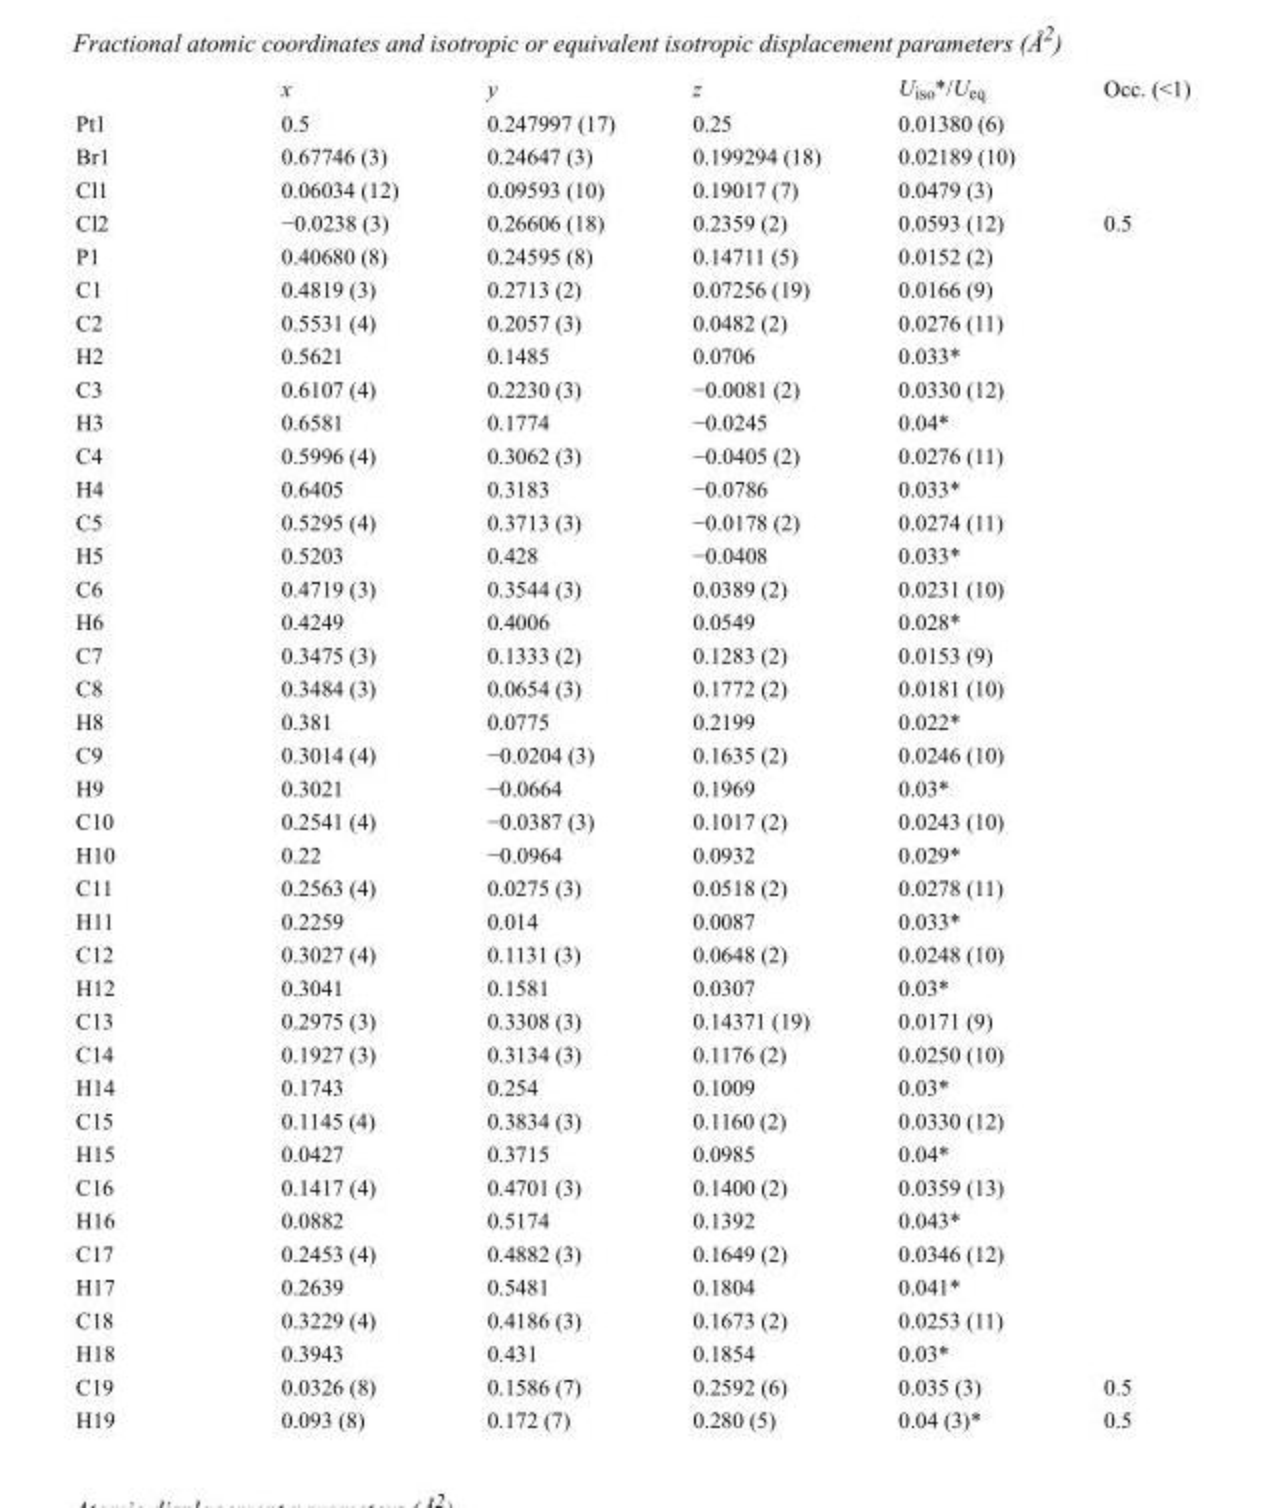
<table><thead><tr><td></td><td>x</td><td>y</td><td>z</td><td>U<sub>iso</sub>*/U<sub>eq</sub></td><td>Occ. (&lt;1)</td></tr></thead><tbody><tr><td>Pt1</td><td>0.5</td><td>0.247997 (17)</td><td>0.25</td><td>0.01380 (6)</td><td></td></tr><tr><td>Br1</td><td>0.67746 (3)</td><td>0.24647 (3)</td><td>0.199294 (18)</td><td>0.02189 (10)</td><td></td></tr><tr><td>Cl1</td><td>0.06034 (12)</td><td>0.09593 (10)</td><td>0.19017 (7)</td><td>0.0479 (3)</td><td></td></tr><tr><td>Cl2</td><td>−0.0238 (3)</td><td>0.26606 (18)</td><td>0.2359 (2)</td><td>0.0593 (12)</td><td>0.5</td></tr><tr><td>P1</td><td>0.40680 (8)</td><td>0.24595 (8)</td><td>0.14711 (5)</td><td>0.0152 (2)</td><td></td></tr><tr><td>C1</td><td>0.4819 (3)</td><td>0.2713 (2)</td><td>0.07256 (19)</td><td>0.0166 (9)</td><td></td></tr><tr><td>C2</td><td>0.5531 (4)</td><td>0.2057 (3)</td><td>0.0482 (2)</td><td>0.0276 (11)</td><td></td></tr><tr><td>H2</td><td>0.5621</td><td>0.1485</td><td>0.0706</td><td>0.033*</td><td></td></tr><tr><td>C3</td><td>0.6107 (4)</td><td>0.2230 (3)</td><td>−0.0081 (2)</td><td>0.0330 (12)</td><td></td></tr><tr><td>H3</td><td>0.6581</td><td>0.1774</td><td>−0.0245</td><td>0.04*</td><td></td></tr><tr><td>C4</td><td>0.5996 (4)</td><td>0.3062 (3)</td><td>−0.0405 (2)</td><td>0.0276 (11)</td><td></td></tr><tr><td>H4</td><td>0.6405</td><td>0.3183</td><td>−0.0786</td><td>0.033*</td><td></td></tr><tr><td>C5</td><td>0.5295 (4)</td><td>0.3713 (3)</td><td>−0.0178 (2)</td><td>0.0274 (11)</td><td></td></tr><tr><td>H5</td><td>0.5203</td><td>0.428</td><td>−0.0408</td><td>0.033*</td><td></td></tr><tr><td>C6</td><td>0.4719 (3)</td><td>0.3544 (3)</td><td>0.0389 (2)</td><td>0.0231 (10)</td><td></td></tr><tr><td>H6</td><td>0.4249</td><td>0.4006</td><td>0.0549</td><td>0.028*</td><td></td></tr><tr><td>C7</td><td>0.3475 (3)</td><td>0.1333 (2)</td><td>0.1283 (2)</td><td>0.0153 (9)</td><td></td></tr><tr><td>C8</td><td>0.3484 (3)</td><td>0.0654 (3)</td><td>0.1772 (2)</td><td>0.0181 (10)</td><td></td></tr><tr><td>H8</td><td>0.381</td><td>0.0775</td><td>0.2199</td><td>0.022*</td><td></td></tr><tr><td>C9</td><td>0.3014 (4)</td><td>−0.0204 (3)</td><td>0.1635 (2)</td><td>0.0246 (10)</td><td></td></tr><tr><td>H9</td><td>0.3021</td><td>−0.0664</td><td>0.1969</td><td>0.03*</td><td></td></tr><tr><td>C10</td><td>0.2541 (4)</td><td>−0.0387 (3)</td><td>0.1017 (2)</td><td>0.0243 (10)</td><td></td></tr><tr><td>H10</td><td>0.22</td><td>−0.0964</td><td>0.0932</td><td>0.029*</td><td></td></tr><tr><td>C11</td><td>0.2563 (4)</td><td>0.0275 (3)</td><td>0.0518 (2)</td><td>0.0278 (11)</td><td></td></tr><tr><td>H11</td><td>0.2259</td><td>0.014</td><td>0.0087</td><td>0.033*</td><td></td></tr><tr><td>C12</td><td>0.3027 (4)</td><td>0.1131 (3)</td><td>0.0648 (2)</td><td>0.0248 (10)</td><td></td></tr><tr><td>H12</td><td>0.3041</td><td>0.1581</td><td>0.0307</td><td>0.03*</td><td></td></tr><tr><td>C13</td><td>0.2975 (3)</td><td>0.3308 (3)</td><td>0.14371 (19)</td><td>0.0171 (9)</td><td></td></tr><tr><td>C14</td><td>0.1927 (3)</td><td>0.3134 (3)</td><td>0.1176 (2)</td><td>0.0250 (10)</td><td></td></tr><tr><td>H14</td><td>0.1743</td><td>0.254</td><td>0.1009</td><td>0.03*</td><td></td></tr><tr><td>C15</td><td>0.1145 (4)</td><td>0.3834 (3)</td><td>0.1160 (2)</td><td>0.0330 (12)</td><td></td></tr><tr><td>H15</td><td>0.0427</td><td>0.3715</td><td>0.0985</td><td>0.04*</td><td></td></tr><tr><td>C16</td><td>0.1417 (4)</td><td>0.4701 (3)</td><td>0.1400 (2)</td><td>0.0359 (13)</td><td></td></tr><tr><td>H16</td><td>0.0882</td><td>0.5174</td><td>0.1392</td><td>0.043*</td><td></td></tr><tr><td>C17</td><td>0.2453 (4)</td><td>0.4882 (3)</td><td>0.1649 (2)</td><td>0.0346 (12)</td><td></td></tr><tr><td>H17</td><td>0.2639</td><td>0.5481</td><td>0.1804</td><td>0.041*</td><td></td></tr><tr><td>C18</td><td>0.3229 (4)</td><td>0.4186 (3)</td><td>0.1673 (2)</td><td>0.0253 (11)</td><td></td></tr><tr><td>H18</td><td>0.3943</td><td>0.431</td><td>0.1854</td><td>0.03*</td><td></td></tr><tr><td>C19</td><td>0.0326 (8)</td><td>0.1586 (7)</td><td>0.2592 (6)</td><td>0.035 (3)</td><td>0.5</td></tr><tr><td>H19</td><td>0.093 (8)</td><td>0.172 (7)</td><td>0.280 (5)</td><td>0.04 (3)*</td><td>0.5</td></tr></tbody></table>